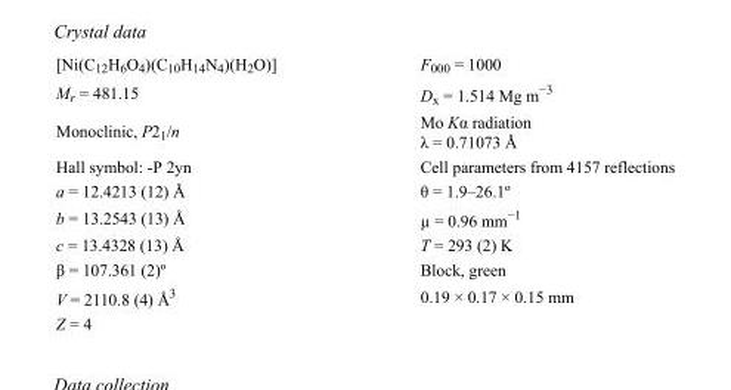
<table><tbody><tr><td>[Ni(C<sub>12</sub>H<sub>6</sub>O<sub>4</sub>)(C<sub>10</sub>H<sub>14</sub>N<sub>4</sub>)(H<sub>2</sub>O)]</td><td>F<sub>000</sub> = 1000</td></tr><tr><td>M<sub>r</sub> = 481.15</td><td>D<sub>x</sub> = 1.514 Mg m<sup>−3</sup></td></tr><tr><td>Monoclinic, P2<sub>1</sub>/n</td><td>Mo Kα radiation λ = 0.71073 Å</td></tr><tr><td>Hall symbol: -P 2yn</td><td>Cell parameters from 4157 reflections</td></tr><tr><td>a = 12.4213 (12) Å</td><td>θ = 1.9–26.1º</td></tr><tr><td>b = 13.2543 (13) Å</td><td>µ = 0.96 mm<sup>−1</sup></td></tr><tr><td>c = 13.4328 (13) Å</td><td>T = 293 (2) K</td></tr><tr><td>β = 107.361 (2)º</td><td>Block, green</td></tr><tr><td>V = 2110.8 (4) Å<sup>3</sup></td><td>0.19 × 0.17 × 0.15 mm</td></tr><tr><td>Z = 4</td><td></td></tr></tbody></table>